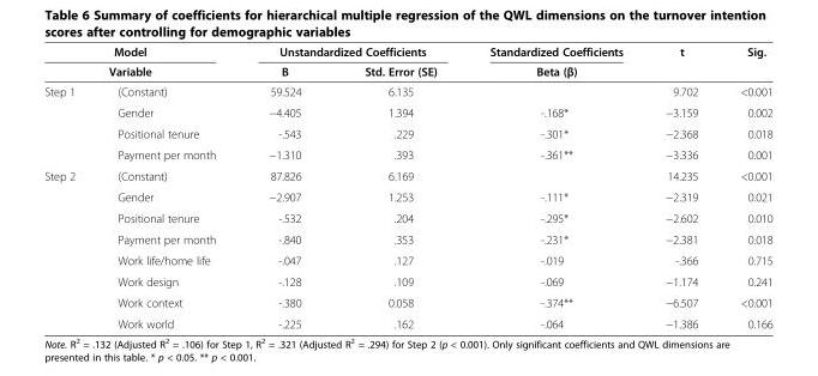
<table><thead><tr><td rowspan="2" colspan="2">Model Variable</td><td colspan="2">Unstandardized Coefficients</td><td rowspan="3">Standardized Coefficients Beta (β)</td><td rowspan="3">t 9.702</td><td rowspan="3">Sig. &lt;0.001</td></tr><tr><td rowspan="2">B 59.524</td><td rowspan="2">Std. Error (SE) 6.135</td></tr><tr><td>Step 1</td><td>(Constant)</td></tr></thead><tbody><tr><td></td><td>Gender</td><td>−4.405</td><td>1.394</td><td>-.168*</td><td>−3.159</td><td>0.002</td></tr><tr><td></td><td>Positional tenure</td><td>-.543</td><td>.229</td><td>-.301*</td><td>−2.368</td><td>0.018</td></tr><tr><td></td><td>Payment per month</td><td>−1.310</td><td>.393</td><td>-.361**</td><td>−3.336</td><td>0.001</td></tr><tr><td rowspan="8">Step 2</td><td>(Constant)</td><td>87.826</td><td>6.169</td><td></td><td>14.235</td><td>&lt;0.001</td></tr><tr><td>Gender</td><td>−2.907</td><td>1.253</td><td>-.111*</td><td>−2.319</td><td>0.021</td></tr><tr><td>Positional tenure</td><td>-.532</td><td>.204</td><td>-.295*</td><td>−2.602</td><td>0.010</td></tr><tr><td>Payment per month</td><td>-.840</td><td>.353</td><td>-.231*</td><td>−2.381</td><td>0.018</td></tr><tr><td>Work life/home life</td><td>-.047</td><td>.127</td><td>-.019</td><td>-.366</td><td>0.715</td></tr><tr><td>Work design</td><td>-.128</td><td>.109</td><td>-.069</td><td>−1.174</td><td>0.241</td></tr><tr><td>Work context</td><td>-.380</td><td>0.058</td><td>-.374**</td><td>−6.507</td><td>&lt;0.001</td></tr><tr><td>Work world</td><td>-.225</td><td>.162</td><td>-.064</td><td>−1.386</td><td>0.166</td></tr></tbody></table>